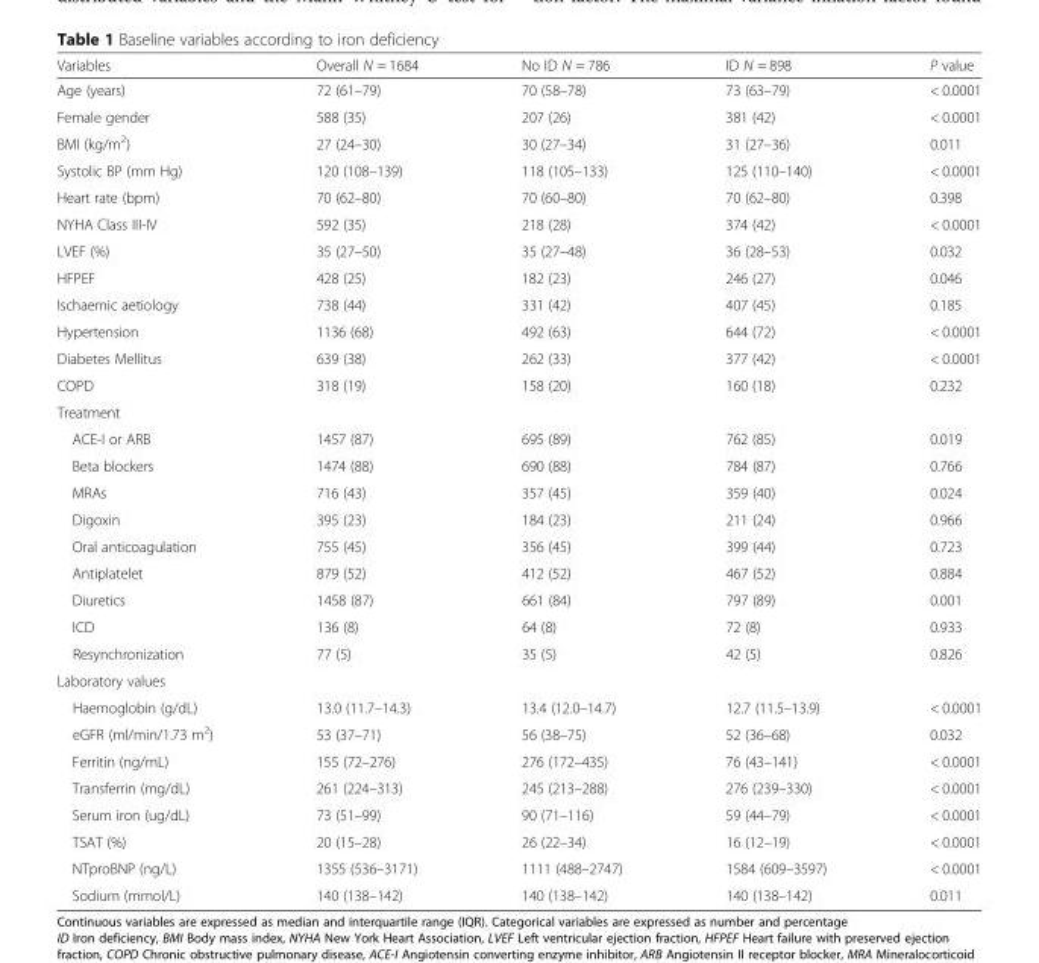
<table><thead><tr><td>Variables</td><td>Overall N = 1684</td><td>No ID N = 786</td><td>ID N = 898</td><td>P value</td></tr></thead><tbody><tr><td>Age (years)</td><td>72 (61–79)</td><td>70 (58–78)</td><td>73 (63–79)</td><td>&lt; 0.0001</td></tr><tr><td>Female gender</td><td>588 (35)</td><td>207 (26)</td><td>381 (42)</td><td>&lt; 0.0001</td></tr><tr><td>BMI (kg/m<sup>2</sup>)</td><td>27 (24–30)</td><td>30 (27–34)</td><td>31 (27–36)</td><td>0.011</td></tr><tr><td>Systolic BP (mm Hg)</td><td>120 (108–139)</td><td>118 (105–133)</td><td>125 (110–140)</td><td>&lt; 0.0001</td></tr><tr><td>Heart rate (bpm)</td><td>70 (62–80)</td><td>70 (60–80)</td><td>70 (62–80)</td><td>0.398</td></tr><tr><td>NYHA Class III-IV</td><td>592 (35)</td><td>218 (28)</td><td>374 (42)</td><td>&lt; 0.0001</td></tr><tr><td>LVEF (%)</td><td>35 (27–50)</td><td>35 (27–48)</td><td>36 (28–53)</td><td>0.032</td></tr><tr><td>HFPEF</td><td>428 (25)</td><td>182 (23)</td><td>246 (27)</td><td>0.046</td></tr><tr><td>Ischaemic aetiology</td><td>738 (44)</td><td>331 (42)</td><td>407 (45)</td><td>0.185</td></tr><tr><td>Hypertension</td><td>1136 (68)</td><td>492 (63)</td><td>644 (72)</td><td>&lt; 0.0001</td></tr><tr><td>Diabetes Mellitus</td><td>639 (38)</td><td>262 (33)</td><td>377 (42)</td><td>&lt; 0.0001</td></tr><tr><td>COPD</td><td>318 (19)</td><td>158 (20)</td><td>160 (18)</td><td>0.232</td></tr><tr><td colspan="5">Treatment</td></tr><tr><td>ACE-I or ARB</td><td>1457 (87)</td><td>695 (89)</td><td>762 (85)</td><td>0.019</td></tr><tr><td>Beta blockers</td><td>1474 (88)</td><td>690 (88)</td><td>784 (87)</td><td>0.766</td></tr><tr><td>MRAs</td><td>716 (43)</td><td>357 (45)</td><td>359 (40)</td><td>0.024</td></tr><tr><td>Digoxin</td><td>395 (23)</td><td>184 (23)</td><td>211 (24)</td><td>0.966</td></tr><tr><td>Oral anticoagulation</td><td>755 (45)</td><td>356 (45)</td><td>399 (44)</td><td>0.723</td></tr><tr><td>Antiplatelet</td><td>879 (52)</td><td>412 (52)</td><td>467 (52)</td><td>0.884</td></tr><tr><td>Diuretics</td><td>1458 (87)</td><td>661 (84)</td><td>797 (89)</td><td>0.001</td></tr><tr><td>ICD</td><td>136 (8)</td><td>64 (8)</td><td>72 (8)</td><td>0.933</td></tr><tr><td>Resynchronization</td><td>77 (5)</td><td>35 (5)</td><td>42 (5)</td><td>0.826</td></tr><tr><td colspan="5">Laboratory values</td></tr><tr><td>Haemoglobin (g/dL)</td><td>13.0 (11.7–14.3)</td><td>13.4 (12.0–14.7)</td><td>12.7 (11.5–13.9)</td><td>&lt; 0.0001</td></tr><tr><td>eGFR (ml/min/1.73 m<sup>2</sup>)</td><td>53 (37–71)</td><td>56 (38–75)</td><td>52 (36–68)</td><td>0.032</td></tr><tr><td>Ferritin (ng/mL)</td><td>155 (72–276)</td><td>276 (172–435)</td><td>76 (43–141)</td><td>&lt; 0.0001</td></tr><tr><td>Transferrin (mg/dL)</td><td>261 (224–313)</td><td>245 (213–288)</td><td>276 (239–330)</td><td>&lt; 0.0001</td></tr><tr><td>Serum iron (ug/dL)</td><td>73 (51–99)</td><td>90 (71–116)</td><td>59 (44–79)</td><td>&lt; 0.0001</td></tr><tr><td>TSAT (%)</td><td>20 (15–28)</td><td>26 (22–34)</td><td>16 (12–19)</td><td>&lt; 0.0001</td></tr><tr><td>NTproBNP (ng/L)</td><td>1355 (536–3171)</td><td>1111 (488–2747)</td><td>1584 (609–3597)</td><td>&lt; 0.0001</td></tr><tr><td>Sodium (mmol/L)</td><td>140 (138–142)</td><td>140 (138–142)</td><td>140 (138–142)</td><td>0.011</td></tr></tbody></table>